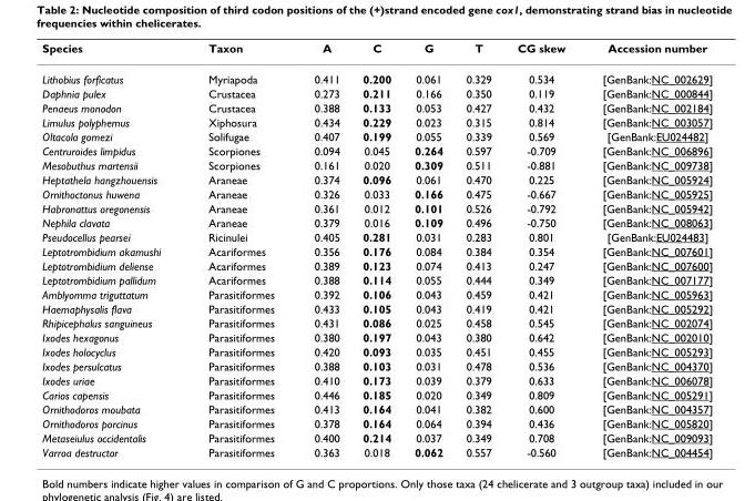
<table><thead><tr><td>Species</td><td>Taxon</td><td>A</td><td>C</td><td>G</td><td>T</td><td>CG skew</td><td>Accession number</td></tr></thead><tbody><tr><td>Lithobius forficatus</td><td>Myriapoda</td><td>0.411</td><td>0.200</td><td>0.061</td><td>0.329</td><td>0.534</td><td>[GenBank:NC_002629]</td></tr><tr><td>Daphnia pulex</td><td>Crustacea</td><td>0.273</td><td>0.211</td><td>0.166</td><td>0.350</td><td>0.119</td><td>[GenBank:NC_000844]</td></tr><tr><td>Penaeus monodon</td><td>Crustacea</td><td>0.388</td><td>0.133</td><td>0.053</td><td>0.427</td><td>0.432</td><td>[GenBank:NC_002184]</td></tr><tr><td>Limulus polyphemus</td><td>Xiphosura</td><td>0.434</td><td>0.229</td><td>0.023</td><td>0.315</td><td>0.814</td><td>[GenBank:NC_003057]</td></tr><tr><td>Oltacola gomezi</td><td>Solifugae</td><td>0.407</td><td>0.199</td><td>0.055</td><td>0.339</td><td>0.569</td><td>[GenBank:EU024482]</td></tr><tr><td>Centruroides limpidus</td><td>Scorpiones</td><td>0.094</td><td>0.045</td><td>0.264</td><td>0.597</td><td>-0.709</td><td>[GenBank:NC_006896]</td></tr><tr><td>Mesobuthus martensii</td><td>Scorpiones</td><td>0.161</td><td>0.020</td><td>0.309</td><td>0.511</td><td>-0.881</td><td>[GenBank:NC_009738]</td></tr><tr><td>Heptathela hangzhouensis</td><td>Araneae</td><td>0.374</td><td>0.096</td><td>0.061</td><td>0.470</td><td>0.225</td><td>[GenBank:NC_005924]</td></tr><tr><td>Ornithoctonus huwena</td><td>Araneae</td><td>0.326</td><td>0.033</td><td>0.166</td><td>0.475</td><td>-0.667</td><td>[GenBank:NC_005925]</td></tr><tr><td>Habronattus oregonensis</td><td>Araneae</td><td>0.361</td><td>0.012</td><td>0.101</td><td>0.526</td><td>-0.792</td><td>[GenBank:NC_005942]</td></tr><tr><td>Nephila clavata</td><td>Araneae</td><td>0.379</td><td>0.016</td><td>0.109</td><td>0.496</td><td>-0.750</td><td>[GenBank:NC_008063]</td></tr><tr><td>Pseudocellus pearsei</td><td>Ricinulei</td><td>0.405</td><td>0.281</td><td>0.031</td><td>0.283</td><td>0.801</td><td>[GenBank:EU024483]</td></tr><tr><td>Leptotrombidium akamushi</td><td>Acariformes</td><td>0.356</td><td>0.176</td><td>0.084</td><td>0.384</td><td>0.354</td><td>[GenBank:NC_007601]</td></tr><tr><td>Leptotrombidium deliense</td><td>Acariformes</td><td>0.389</td><td>0.123</td><td>0.074</td><td>0.413</td><td>0.247</td><td>[GenBank:NC_007600]</td></tr><tr><td>Leptotrombidium pallidum</td><td>Acariformes</td><td>0.388</td><td>0.114</td><td>0.055</td><td>0.444</td><td>0.349</td><td>[GenBank:NC_007177]</td></tr><tr><td>Amblyomma triguttatum</td><td>Parasitiformes</td><td>0.392</td><td>0.106</td><td>0.043</td><td>0.459</td><td>0.421</td><td>[GenBank:NC_005963]</td></tr><tr><td>Haemaphysalis flava</td><td>Parasitiformes</td><td>0.433</td><td>0.105</td><td>0.043</td><td>0.419</td><td>0.421</td><td>[GenBank:NC_005292]</td></tr><tr><td>Rhipicephalus sanguineus</td><td>Parasitiformes</td><td>0.431</td><td>0.086</td><td>0.025</td><td>0.458</td><td>0.545</td><td>[GenBank:NC_002074]</td></tr><tr><td>Ixodes hexagonus</td><td>Parasitiformes</td><td>0.380</td><td>0.197</td><td>0.043</td><td>0.380</td><td>0.642</td><td>[GenBank:NC_002010]</td></tr><tr><td>Ixodes holocyclus</td><td>Parasitiformes</td><td>0.420</td><td>0.093</td><td>0.035</td><td>0.451</td><td>0.455</td><td>[GenBank:NC_005293]</td></tr><tr><td>Ixodes persulcatus</td><td>Parasitiformes</td><td>0.388</td><td>0.103</td><td>0.031</td><td>0.478</td><td>0.536</td><td>[GenBank:NC_004370]</td></tr><tr><td>Ixodes uriae</td><td>Parasitiformes</td><td>0.410</td><td>0.173</td><td>0.039</td><td>0.379</td><td>0.633</td><td>[GenBank:NC_006078]</td></tr><tr><td>Carios capensis</td><td>Parasitiformes</td><td>0.446</td><td>0.185</td><td>0.020</td><td>0.349</td><td>0.809</td><td>[GenBank:NC_005291]</td></tr><tr><td>Ornithodoros moubata</td><td>Parasitiformes</td><td>0.413</td><td>0.164</td><td>0.041</td><td>0.382</td><td>0.600</td><td>[GenBank:NC_004357]</td></tr><tr><td>Ornithodoros porcinus</td><td>Parasitiformes</td><td>0.378</td><td>0.164</td><td>0.064</td><td>0.394</td><td>0.436</td><td>[GenBank:NC_005820]</td></tr><tr><td>Metaseiulus occidentalis</td><td>Parasitiformes</td><td>0.400</td><td>0.214</td><td>0.037</td><td>0.349</td><td>0.708</td><td>[GenBank:NC_009093]</td></tr><tr><td>Varroa destructor</td><td>Parasitiformes</td><td>0.363</td><td>0.018</td><td>0.062</td><td>0.557</td><td>-0.560</td><td>[GenBank:NC_004454]</td></tr></tbody></table>